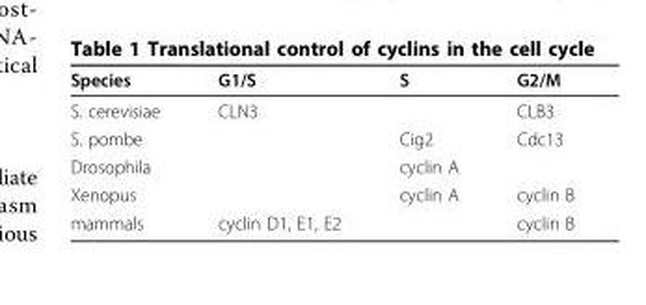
<table><thead><tr><td>Species</td><td>G1/S</td><td>S</td><td>G2/M</td></tr></thead><tbody><tr><td>S. cerevisiae</td><td>CLN3</td><td></td><td>CLB3</td></tr><tr><td>S. pombe</td><td></td><td>Cig2</td><td>Cdc13</td></tr><tr><td>Drosophila</td><td></td><td>cyclin A</td><td></td></tr><tr><td>Xenopus</td><td></td><td>cyclin A</td><td>cyclin B</td></tr><tr><td>mammals</td><td>cyclin D1, E1, E2</td><td></td><td>cyclin B</td></tr></tbody></table>